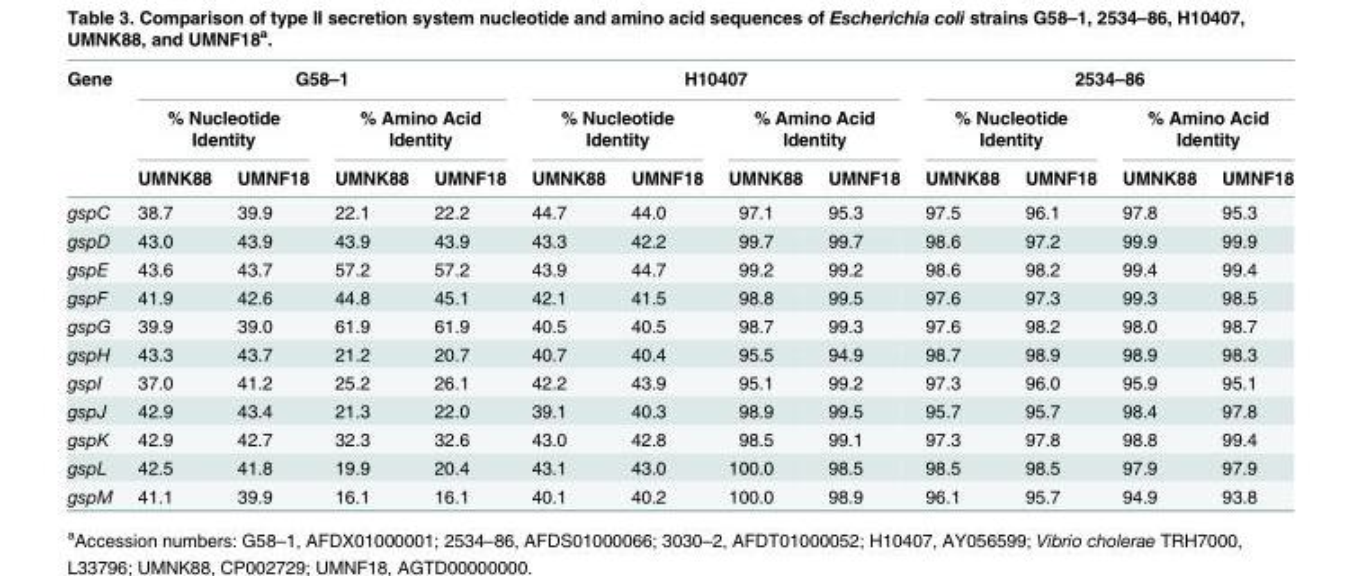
<table><thead><tr><td rowspan="3">Gene</td><td colspan="4">G58–1</td><td colspan="4">H10407</td><td colspan="4">2534–86</td></tr><tr><td colspan="2">% Nucleotide Identity</td><td colspan="2">% Amino Acid Identity</td><td colspan="2">% Nucleotide Identity</td><td colspan="2">% Amino Acid Identity</td><td colspan="2">% Nucleotide Identity</td><td colspan="2">% Amino Acid Identity</td></tr><tr><td>UMNK88</td><td>UMNF18</td><td>UMNK88</td><td>UMNF18</td><td>UMNK88</td><td>UMNF18</td><td>UMNK88</td><td>UMNF18</td><td>UMNK88</td><td>UMNF18</td><td>UMNK88</td><td>UMNF18</td></tr></thead><tbody><tr><td>gspC</td><td>38.7</td><td>39.9</td><td>22.1</td><td>22.2</td><td>44.7</td><td>44.0</td><td>97.1</td><td>95.3</td><td>97.5</td><td>96.1</td><td>97.8</td><td>95.3</td></tr><tr><td>gspD</td><td>43.0</td><td>43.9</td><td>43.9</td><td>43.9</td><td>43.3</td><td>42.2</td><td>99.7</td><td>99.7</td><td>98.6</td><td>97.2</td><td>99.9</td><td>99.9</td></tr><tr><td>gspE</td><td>43.6</td><td>43.7</td><td>57.2</td><td>57.2</td><td>43.9</td><td>44.7</td><td>99.2</td><td>99.2</td><td>98.6</td><td>98.2</td><td>99.4</td><td>99.4</td></tr><tr><td>gspF</td><td>41.9</td><td>42.6</td><td>44.8</td><td>45.1</td><td>42.1</td><td>41.5</td><td>98.8</td><td>99.5</td><td>97.6</td><td>97.3</td><td>99.3</td><td>98.5</td></tr><tr><td>gspG</td><td>39.9</td><td>39.0</td><td>61.9</td><td>61.9</td><td>40.5</td><td>40.5</td><td>98.7</td><td>99.3</td><td>97.6</td><td>98.2</td><td>98.0</td><td>98.7</td></tr><tr><td>gspH</td><td>43.3</td><td>43.7</td><td>21.2</td><td>20.7</td><td>40.7</td><td>40.4</td><td>95.5</td><td>94.9</td><td>98.7</td><td>98.9</td><td>98.9</td><td>98.3</td></tr><tr><td>gspI</td><td>37.0</td><td>41.2</td><td>25.2</td><td>26.1</td><td>42.2</td><td>43.9</td><td>95.1</td><td>99.2</td><td>97.3</td><td>96.0</td><td>95.9</td><td>95.1</td></tr><tr><td>gspJ</td><td>42.9</td><td>43.4</td><td>21.3</td><td>22.0</td><td>39.1</td><td>40.3</td><td>98.9</td><td>99.5</td><td>95.7</td><td>95.7</td><td>98.4</td><td>97.8</td></tr><tr><td>gspK</td><td>42.9</td><td>42.7</td><td>32.3</td><td>32.6</td><td>43.0</td><td>42.8</td><td>98.5</td><td>99.1</td><td>97.3</td><td>97.8</td><td>98.8</td><td>99.4</td></tr><tr><td>gspL</td><td>42.5</td><td>41.8</td><td>19.9</td><td>20.4</td><td>43.1</td><td>43.0</td><td>100.0</td><td>98.5</td><td>98.5</td><td>98.5</td><td>97.9</td><td>97.9</td></tr><tr><td>gspM</td><td>41.1</td><td>39.9</td><td>16.1</td><td>16.1</td><td>40.1</td><td>40.2</td><td>100.0</td><td>98.9</td><td>96.1</td><td>95.7</td><td>94.9</td><td>93.8</td></tr></tbody></table>